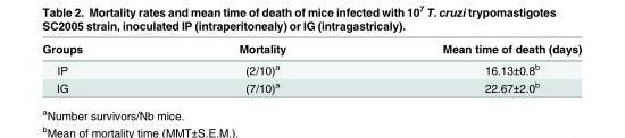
<table><thead><tr><td>Groups</td><td>Mortality</td><td>Mean time of death (days)</td></tr></thead><tbody><tr><td>IP</td><td>(2/10)<sup>a</sup></td><td>16.13±0.8<sup>b</sup></td></tr><tr><td>IG</td><td>(7/10)<sup>a</sup></td><td>22.67±2.0<sup>b</sup></td></tr></tbody></table>